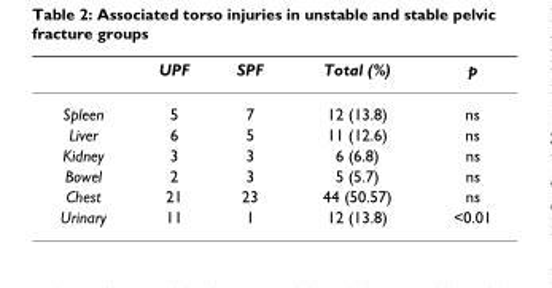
<table><thead><tr><td></td><td>UPF</td><td>SPF</td><td>Total (%)</td><td>p</td></tr></thead><tbody><tr><td>Spleen</td><td>5</td><td>7</td><td>12 (13.8)</td><td>ns</td></tr><tr><td>Liver</td><td>6</td><td>5</td><td>11 (12.6)</td><td>ns</td></tr><tr><td>Kidney</td><td>3</td><td>3</td><td>6 (6.8)</td><td>ns</td></tr><tr><td>Bowel</td><td>2</td><td>3</td><td>5 (5.7)</td><td>ns</td></tr><tr><td>Chest</td><td>21</td><td>23</td><td>44 (50.57)</td><td>ns</td></tr><tr><td>Urinary</td><td>11</td><td>1</td><td>12 (13.8)</td><td>&lt;0.01</td></tr></tbody></table>